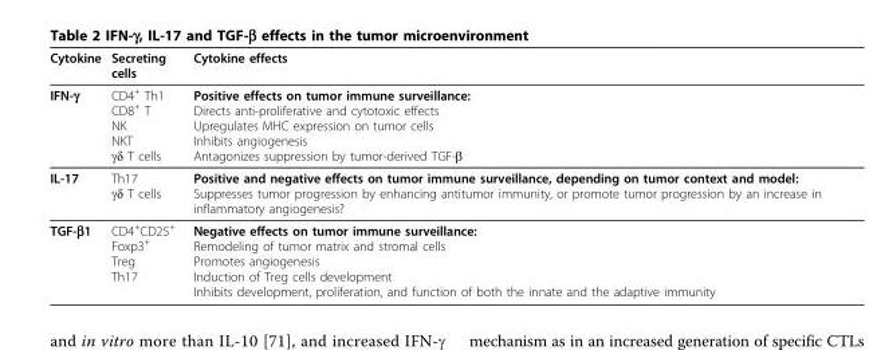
<table><thead><tr><td>Cytokine</td><td>Secreting cells</td><td>Cytokine effects</td></tr></thead><tbody><tr><td>IFN-γ</td><td>CD4<sup>+</sup> Th1 CD8<sup>+</sup> T NK NKT γδ T cells</td><td>Positive effects on tumor immune surveillance: Directs anti-proliferative and cytotoxic effects Upregulates MHC expression on tumor cells Inhibits angiogenesis Antagonizes suppression by tumor-derived TGF-β</td></tr><tr><td>IL-17</td><td>Th17 γδ T cells</td><td>Positive and negative effects on tumor immune surveillance, depending on tumor context and model: Suppresses tumor progression by enhancing antitumor immunity, or promote tumor progression by an increase in inflammatory angiogenesis?</td></tr><tr><td>TGF-β1</td><td>CD4<sup>+</sup>CD25<sup>+</sup> Foxp3<sup>+</sup> Treg Th17</td><td>Negative effects on tumor immune surveillance: Remodeling of tumor matrix and stromal cells Promotes angiogenesis Induction of Treg cells development Inhibits development, proliferation, and function of both the innate and the adaptive immunity</td></tr></tbody></table>